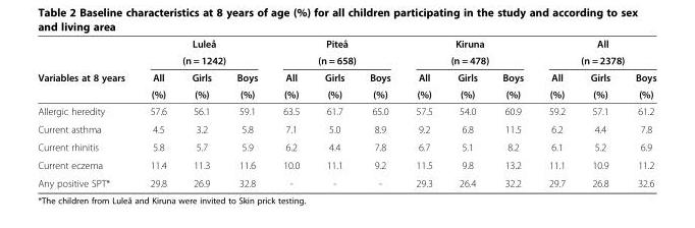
<table><thead><tr><td rowspan="4">Variables at 8 years</td><td rowspan="2" colspan="3">Luleå (n = 1242)</td><td rowspan="2" colspan="3">Piteå (n = 658)</td><td rowspan="2" colspan="3">Kiruna (n = 478)</td><td rowspan="2" colspan="3">All (n = 2378)</td></tr><tr></tr><tr><td rowspan="2">All (%)</td><td rowspan="2">Girls (%)</td><td rowspan="2">Boys (%)</td><td rowspan="2">All (%)</td><td rowspan="2">Girls (%)</td><td rowspan="2">Boys (%)</td><td rowspan="2">All (%)</td><td rowspan="2">Girls (%)</td><td rowspan="2">Boys (%)</td><td rowspan="2">All (%)</td><td rowspan="2">Girls (%)</td><td rowspan="2">Boys (%)</td></tr><tr></tr></thead><tbody><tr><td>Allergic heredity</td><td>57.6</td><td>56.1</td><td>59.1</td><td>63.5</td><td>61.7</td><td>65.0</td><td>57.5</td><td>54.0</td><td>60.9</td><td>59.2</td><td>57.1</td><td>61.2</td></tr><tr><td>Current asthma</td><td>4.5</td><td>3.2</td><td>5.8</td><td>7.1</td><td>5.0</td><td>8.9</td><td>9.2</td><td>6.8</td><td>11.5</td><td>6.2</td><td>4.4</td><td>7.8</td></tr><tr><td>Current rhinitis</td><td>5.8</td><td>5.7</td><td>5.9</td><td>6.2</td><td>4.4</td><td>7.8</td><td>6.7</td><td>5.1</td><td>8.2</td><td>6.1</td><td>5.2</td><td>6.9</td></tr><tr><td>Current eczema</td><td>11.4</td><td>11.3</td><td>11.6</td><td>10.0</td><td>11.1</td><td>9.2</td><td>11.5</td><td>9.8</td><td>13.2</td><td>11.1</td><td>10.9</td><td>11.2</td></tr><tr><td>Any positive SPT*</td><td>29.8</td><td>26.9</td><td>32.8</td><td>-</td><td>-</td><td>-</td><td>29.3</td><td>26.4</td><td>32.2</td><td>29.7</td><td>26.8</td><td>32.6</td></tr></tbody></table>